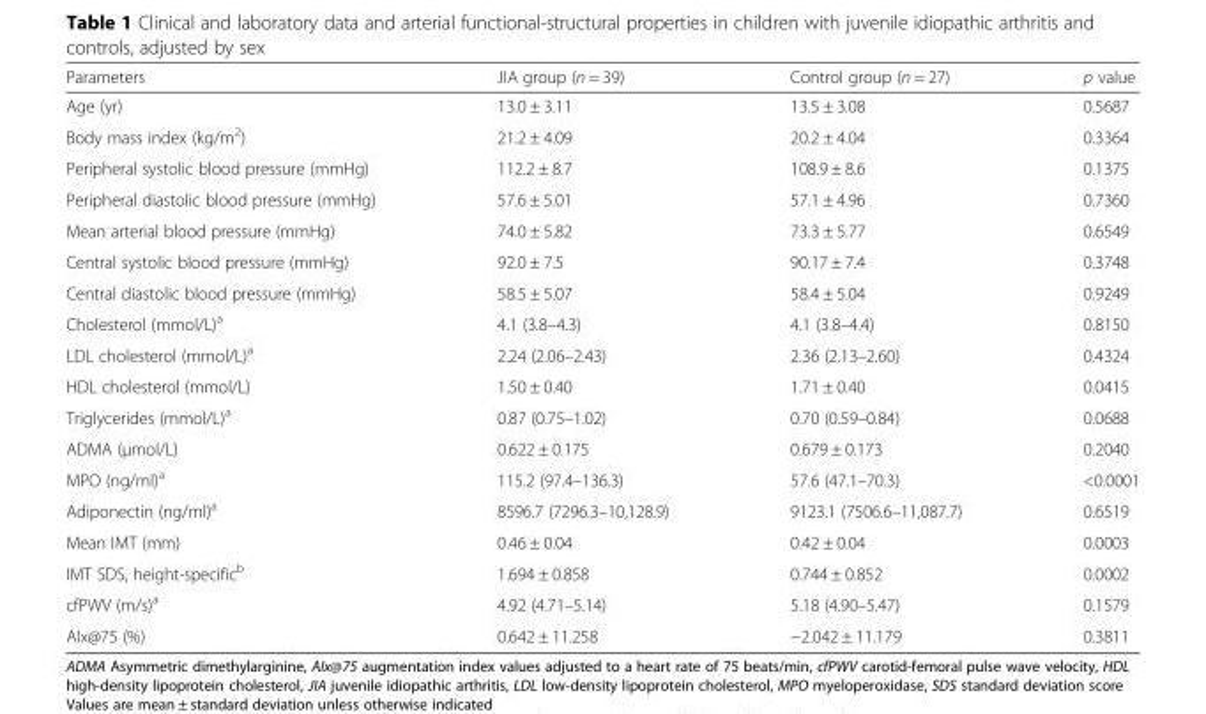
<table><thead><tr><td>Parameters</td><td>JIA group (n = 39)</td><td>Control group (n = 27)</td><td>p value</td></tr></thead><tbody><tr><td>Age (yr)</td><td>13.0 ± 3.11</td><td>13.5 ± 3.08</td><td>0.5687</td></tr><tr><td>Body mass index (kg/m<sup>2</sup>)</td><td>21.2 ± 4.09</td><td>20.2 ± 4.04</td><td>0.3364</td></tr><tr><td>Peripheral systolic blood pressure (mmHg)</td><td>112.2 ± 8.7</td><td>108.9 ± 8.6</td><td>0.1375</td></tr><tr><td>Peripheral diastolic blood pressure (mmHg)</td><td>57.6 ± 5.01</td><td>57.1 ± 4.96</td><td>0.7360</td></tr><tr><td>Mean arterial blood pressure (mmHg)</td><td>74.0 ± 5.82</td><td>73.3 ± 5.77</td><td>0.6549</td></tr><tr><td>Central systolic blood pressure (mmHg)</td><td>92.0 ± 7.5</td><td>90.17 ± 7.4</td><td>0.3748</td></tr><tr><td>Central diastolic blood pressure (mmHg)</td><td>58.5 ± 5.07</td><td>58.4 ± 5.04</td><td>0.9249</td></tr><tr><td>Cholesterol (mmol/L)<sup>a</sup></td><td>4.1 (3.8–4.3)</td><td>4.1 (3.8–4.4)</td><td>0.8150</td></tr><tr><td>LDL cholesterol (mmol/L)<sup>a</sup></td><td>2.24 (2.06–2.43)</td><td>2.36 (2.13–2.60)</td><td>0.4324</td></tr><tr><td>HDL cholesterol (mmol/L)</td><td>1.50 ± 0.40</td><td>1.71 ± 0.40</td><td>0.0415</td></tr><tr><td>Triglycerides (mmol/L)<sup>a</sup></td><td>0.87 (0.75–1.02)</td><td>0.70 (0.59–0.84)</td><td>0.0688</td></tr><tr><td>ADMA (μmol/L)</td><td>0.622 ± 0.175</td><td>0.679 ± 0.173</td><td>0.2040</td></tr><tr><td>MPO (ng/ml)<sup>a</sup></td><td>115.2 (97.4–136.3)</td><td>57.6 (47.1–70.3)</td><td>&lt;0.0001</td></tr><tr><td>Adiponectin (ng/ml)<sup>a</sup></td><td>8596.7 (7296.3–10,128.9)</td><td>9123.1 (7506.6–11,087.7)</td><td>0.6519</td></tr><tr><td>Mean IMT (mm)</td><td>0.46 ± 0.04</td><td>0.42 ± 0.04</td><td>0.0003</td></tr><tr><td>IMT SDS, height-specific<sup>b</sup></td><td>1.694 ± 0.858</td><td>0.744 ± 0.852</td><td>0.0002</td></tr><tr><td>cfPWV (m/s)<sup>a</sup></td><td>4.92 (4.71–5.14)</td><td>5.18 (4.90–5.47)</td><td>0.1579</td></tr><tr><td>AIx@75 (%)</td><td>0.642 ± 11.258</td><td>−2.042 ± 11.179</td><td>0.3811</td></tr></tbody></table>